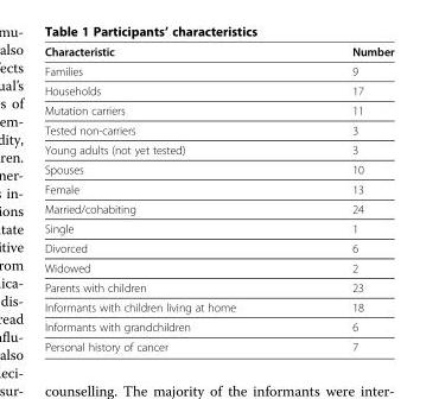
<table><thead><tr><td>Characteristic</td><td>Number</td></tr></thead><tbody><tr><td>Families</td><td>9</td></tr><tr><td>Households</td><td>17</td></tr><tr><td>Mutation carriers</td><td>11</td></tr><tr><td>Tested non-carriers</td><td>3</td></tr><tr><td>Young adults (not yet tested)</td><td>3</td></tr><tr><td>Spouses</td><td>10</td></tr><tr><td>Female</td><td>13</td></tr><tr><td>Married/cohabiting</td><td>24</td></tr><tr><td>Single</td><td>1</td></tr><tr><td>Divorced</td><td>6</td></tr><tr><td>Widowed</td><td>2</td></tr><tr><td>Parents with children</td><td>23</td></tr><tr><td>Informants with children living at home</td><td>18</td></tr><tr><td>Informants with grandchildren</td><td>6</td></tr><tr><td>Personal history of cancer</td><td>7</td></tr></tbody></table>